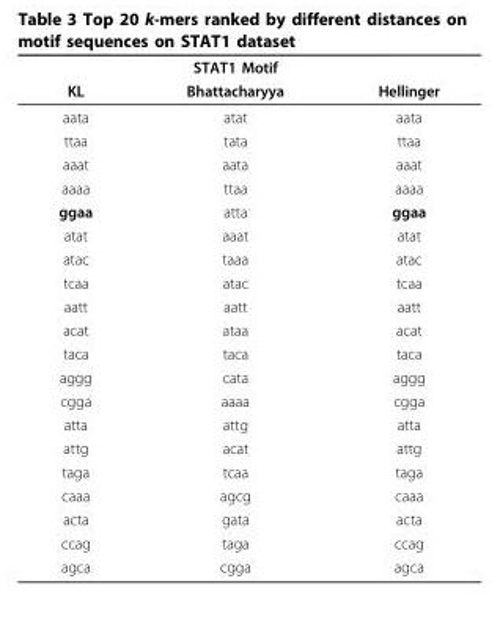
<table><thead><tr><td rowspan="2">KL</td><td rowspan="2">STAT1 Motif Bhattacharyya</td><td rowspan="2">Hellinger</td></tr><tr></tr></thead><tbody><tr><td>aata</td><td>atat</td><td>aata</td></tr><tr><td>ttaa</td><td>tata</td><td>ttaa</td></tr><tr><td>aaat</td><td>aata</td><td>aaat</td></tr><tr><td>aaaa</td><td>ttaa</td><td>aaaa</td></tr><tr><td>ggaa</td><td>atta</td><td>ggaa</td></tr><tr><td>atat</td><td>aaat</td><td>atat</td></tr><tr><td>atac</td><td>taaa</td><td>atac</td></tr><tr><td>tcaa</td><td>atac</td><td>tcaa</td></tr><tr><td>aatt</td><td>aatt</td><td>aatt</td></tr><tr><td>acat</td><td>ataa</td><td>acat</td></tr><tr><td>taca</td><td>taca</td><td>taca</td></tr><tr><td>aggg</td><td>cata</td><td>aggg</td></tr><tr><td>cgga</td><td>aaaa</td><td>cgga</td></tr><tr><td>atta</td><td>attg</td><td>atta</td></tr><tr><td>attg</td><td>acat</td><td>attg</td></tr><tr><td>taga</td><td>tcaa</td><td>taga</td></tr><tr><td>caaa</td><td>agcg</td><td>caaa</td></tr><tr><td>acta</td><td>gata</td><td>acta</td></tr><tr><td>ccag</td><td>taga</td><td>ccag</td></tr><tr><td>agca</td><td>cgga</td><td>agca</td></tr></tbody></table>